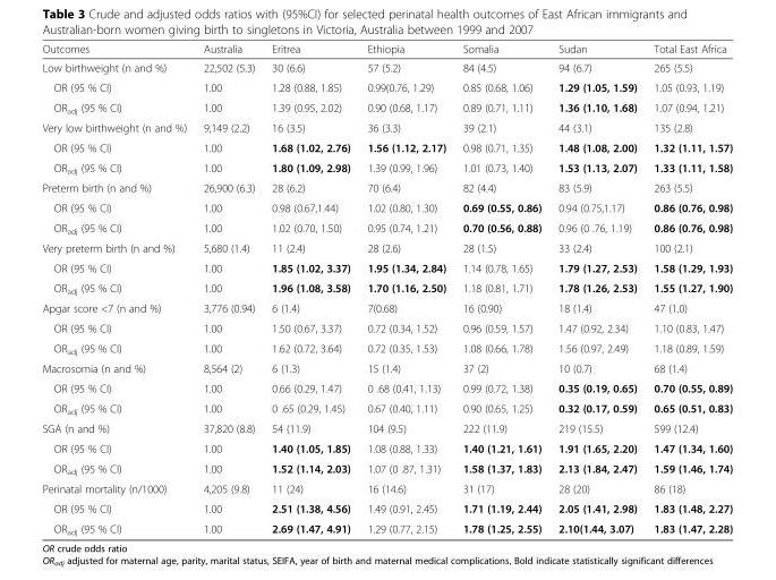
<table><thead><tr><td>Outcomes</td><td>Australia</td><td>Eritrea</td><td>Ethiopia</td><td>Somalia</td><td>Sudan</td><td>Total East Africa</td></tr></thead><tbody><tr><td>Low birthweight (n and %)</td><td>22,502 (5.3)</td><td>30 (6.6)</td><td>57 (5.2)</td><td>84 (4.5)</td><td>94 (6.7)</td><td>265 (5.5)</td></tr><tr><td>OR (95 % CI)</td><td>1.00</td><td>1.28 (0.88, 1.85)</td><td>0.99(0.76, 1.29)</td><td>0.85 (0.68, 1.06)</td><td>1.29 (1.05, 1.59)</td><td>1.05 (0.93, 1.19)</td></tr><tr><td>OR<sub>adj</sub> (95 % CI)</td><td>1.00</td><td>1.39 (0.95, 2.02)</td><td>0.90 (0.68, 1.17)</td><td>0.89 (0.71, 1.11)</td><td>1.36 (1.10, 1.68)</td><td>1.07 (0.94, 1.21)</td></tr><tr><td>Very low birthweight (n and %)</td><td>9,149 (2.2)</td><td>16 (3.5)</td><td>36 (3.3)</td><td>39 (2.1)</td><td>44 (3.1)</td><td>135 (2.8)</td></tr><tr><td>OR (95 % CI)</td><td>1.00</td><td>1.68 (1.02, 2.76)</td><td>1.56 (1.12, 2.17)</td><td>0.98 (0.71, 1.35)</td><td>1.48 (1.08, 2.00)</td><td>1.32 (1.11, 1.57)</td></tr><tr><td>OR<sub>adj</sub> (95 % CI)</td><td>1.00</td><td>1.80 (1.09, 2.98)</td><td>1.39 (0.99, 1.96)</td><td>1.01 (0.73, 1.40)</td><td>1.53 (1.13, 2.07)</td><td>1.33 (1.11, 1.58)</td></tr><tr><td>Preterm birth (n and %)</td><td>26,900 (6.3)</td><td>28 (6.2)</td><td>70 (6.4)</td><td>82 (4.4)</td><td>83 (5.9)</td><td>263 (5.5)</td></tr><tr><td>OR (95 % CI)</td><td>1.00</td><td>0.98 (0.67,1.44)</td><td>1.02 (0.80, 1.30)</td><td>0.69 (0.55, 0.86)</td><td>0.94 (0.75,1.17)</td><td>0.86 (0.76, 0.98)</td></tr><tr><td>OR<sub>adj</sub> (95 % CI)</td><td>1.00</td><td>1.02 (0.70, 1.50)</td><td>0.95 (0.74, 1.21)</td><td>0.70 (0.56, 0.88)</td><td>0.96 (0 .76, 1.19)</td><td>0.86 (0.76, 0.98)</td></tr><tr><td>Very preterm birth (n and %)</td><td>5,680 (1.4)</td><td>11 (2.4)</td><td>28 (2.6)</td><td>28 (1.5)</td><td>33 (2.4)</td><td>100 (2.1)</td></tr><tr><td>OR (95 % CI)</td><td>1.00</td><td>1.85 (1.02, 3.37)</td><td>1.95 (1.34, 2.84)</td><td>1.14 (0.78, 1.65)</td><td>1.79 (1.27, 2.53)</td><td>1.58 (1.29, 1.93)</td></tr><tr><td>OR<sub>adj</sub> (95 % CI)</td><td>1.00</td><td>1.96 (1.08, 3.58)</td><td>1.70 (1.16, 2.50)</td><td>1.18 (0.81, 1.71)</td><td>1.78 (1.26, 2.53)</td><td>1.55 (1.27, 1.90)</td></tr><tr><td>Apgar score &lt;7 (n and %)</td><td>3,776 (0.94)</td><td>6 (1.4)</td><td>7(0.68)</td><td>16 (0.90)</td><td>18 (1.4)</td><td>47 (1.0)</td></tr><tr><td>OR (95 % CI)</td><td>1.00</td><td>1.50 (0.67, 3.37)</td><td>0.72 (0.34, 1.52)</td><td>0.96 (0.59, 1.57)</td><td>1.47 (0.92, 2.34)</td><td>1.10 (0.83, 1.47)</td></tr><tr><td>OR<sub>adj</sub> (95 % CI)</td><td>1.00</td><td>1.62 (0.72, 3.64)</td><td>0.72 (0.35, 1.53)</td><td>1.08 (0.66, 1.78)</td><td>1.56 (0.97, 2.49)</td><td>1.18 (0.89, 1.59)</td></tr><tr><td>Macrosomia (n and %)</td><td>8,564 (2)</td><td>6 (1.3)</td><td>15 (1.4)</td><td>37 (2)</td><td>10 (0.7)</td><td>68 (1.4)</td></tr><tr><td>OR (95 % CI)</td><td>1.00</td><td>0.66 (0.29, 1.47)</td><td>0 .68 (0.41, 1.13)</td><td>0.99 (0.72, 1.38)</td><td>0.35 (0.19, 0.65)</td><td>0.70 (0.55, 0.89)</td></tr><tr><td>OR<sub>adj</sub> (95 % CI)</td><td>1.00</td><td>0 .65 (0.29, 1.45)</td><td>0.67 (0.40, 1.11)</td><td>0.90 (0.65, 1.25)</td><td>0.32 (0.17, 0.59)</td><td>0.65 (0.51, 0.83)</td></tr><tr><td>SGA (n and %)</td><td>37,820 (8.8)</td><td>54 (11.9)</td><td>104 (9.5)</td><td>222 (11.9)</td><td>219 (15.5)</td><td>599 (12.4)</td></tr><tr><td>OR (95 % CI)</td><td>1.00</td><td>1.40 (1.05, 1.85)</td><td>1.08 (0.88, 1.33)</td><td>1.40 (1.21, 1.61)</td><td>1.91 (1.65, 2.20)</td><td>1.47 (1.34, 1.60)</td></tr><tr><td>OR<sub>adj</sub> (95 % CI)</td><td>1.00</td><td>1.52 (1.14, 2.03)</td><td>1.07 (0 .87, 1.31)</td><td>1.58 (1.37, 1.83)</td><td>2.13 (1.84, 2.47)</td><td>1.59 (1.46, 1.74)</td></tr><tr><td>Perinatal mortality (n/1000)</td><td>4,205 (9.8)</td><td>11 (24)</td><td>16 (14.6)</td><td>31 (17)</td><td>28 (20)</td><td>86 (18)</td></tr><tr><td>OR (95 % CI)</td><td>1.00</td><td>2.51 (1.38, 4.56)</td><td>1.49 (0.91, 2.45)</td><td>1.71 (1.19, 2.44)</td><td>2.05 (1.41, 2.98)</td><td>1.83 (1.48, 2.27)</td></tr><tr><td>OR<sub>adj</sub> (95 % CI)</td><td>1.00</td><td>2.69 (1.47, 4.91)</td><td>1.29 (0.77, 2.15)</td><td>1.78 (1.25, 2.55)</td><td>2.10(1.44, 3.07)</td><td>1.83 (1.47, 2.28)</td></tr></tbody></table>